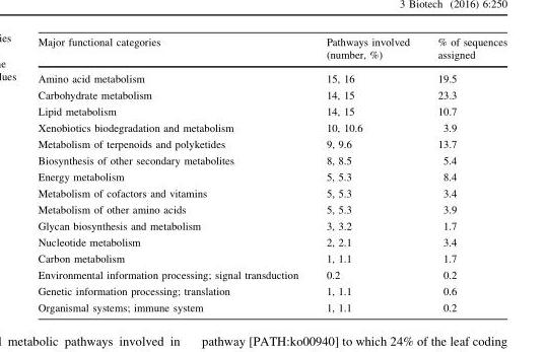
<table><thead><tr><td>Major functional categories</td><td>Pathways involved (number, %)</td><td>% of sequences assigned</td></tr></thead><tbody><tr><td>Amino acid metabolism</td><td>15, 16</td><td>19.5</td></tr><tr><td>Carbohydrate metabolism</td><td>14, 15</td><td>23.3</td></tr><tr><td>Lipid metabolism</td><td>14, 15</td><td>10.7</td></tr><tr><td>Xenobiotics biodegradation and metabolism</td><td>10, 10.6</td><td>3.9</td></tr><tr><td>Metabolism of terpenoids and polyketides</td><td>9, 9.6</td><td>13.7</td></tr><tr><td>Biosynthesis of other secondary metabolites</td><td>8, 8.5</td><td>5.4</td></tr><tr><td>Energy metabolism</td><td>5, 5.3</td><td>8.4</td></tr><tr><td>Metabolism of cofactors and vitamins</td><td>5, 5.3</td><td>3.4</td></tr><tr><td>Metabolism of other amino acids</td><td>5, 5.3</td><td>3.9</td></tr><tr><td>Glycan biosynthesis and metabolism</td><td>3, 3.2</td><td>1.7</td></tr><tr><td>Nucleotide metabolism</td><td>2, 2.1</td><td>3.4</td></tr><tr><td>Carbon metabolism</td><td>1, 1.1</td><td>1.7</td></tr><tr><td>Environmental information processing; signal transduction</td><td>0.2</td><td>0.2</td></tr><tr><td>Genetic information processing; translation</td><td>1, 1.1</td><td>0.6</td></tr><tr><td>Organismal systems; immune system</td><td>1, 1.1</td><td>0.2</td></tr></tbody></table>